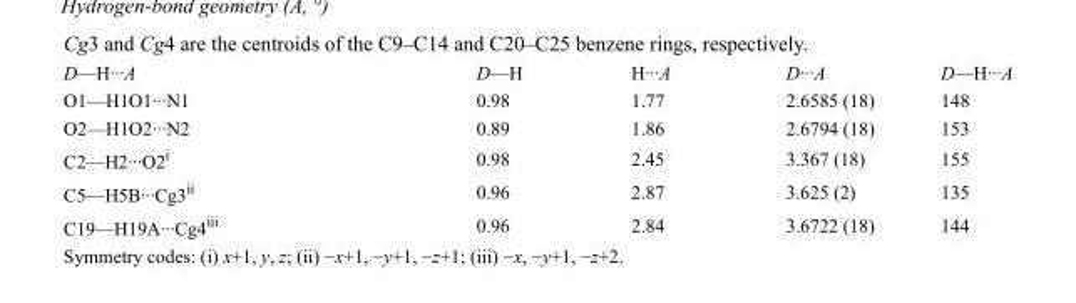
<table><tbody><tr><td>D—H···A</td><td>D—H</td><td>H···A</td><td>D···A</td><td>D—H···A</td></tr><tr><td>O1—H1O1···N1</td><td>0.98</td><td>1.77</td><td>2.6585 (18)</td><td>148</td></tr><tr><td>O2—H1O2···N2</td><td>0.89</td><td>1.86</td><td>2.6794 (18)</td><td>153</td></tr><tr><td>C2—H2···O2<sup>i</sup></td><td>0.98</td><td>2.45</td><td>3.367 (18)</td><td>155</td></tr><tr><td>C5—H5B···Cg3<sup>ii</sup></td><td>0.96</td><td>2.87</td><td>3.625 (2)</td><td>135</td></tr><tr><td>C19—H19A···Cg4<sup>iii</sup></td><td>0.96</td><td>2.84</td><td>3.6722 (18)</td><td>144</td></tr></tbody></table>